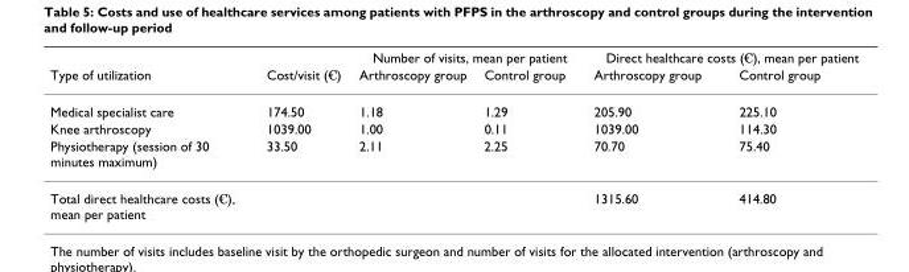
<table><thead><tr><td rowspan="2">Type of utilization</td><td rowspan="2">Cost/visit (€)</td><td colspan="2">Number of visits, mean per patient</td><td colspan="2">Direct healthcare costs (€), mean per patient</td></tr><tr><td>Arthroscopy group</td><td>Control group</td><td>Arthroscopy group</td><td>Control group</td></tr></thead><tbody><tr><td>Medical specialist care</td><td>174.50</td><td>1.18</td><td>1.29</td><td>205.90</td><td>225.10</td></tr><tr><td>Knee arthroscopy</td><td>1039.00</td><td>1.00</td><td>0.11</td><td>1039.00</td><td>114.30</td></tr><tr><td>Physiotherapy (session of 30 minutes maximum)</td><td>33.50</td><td>2.11</td><td>2.25</td><td>70.70</td><td>75.40</td></tr><tr><td>Total direct healthcare costs (€), mean per patient</td><td></td><td></td><td></td><td>1315.60</td><td>414.80</td></tr></tbody></table>